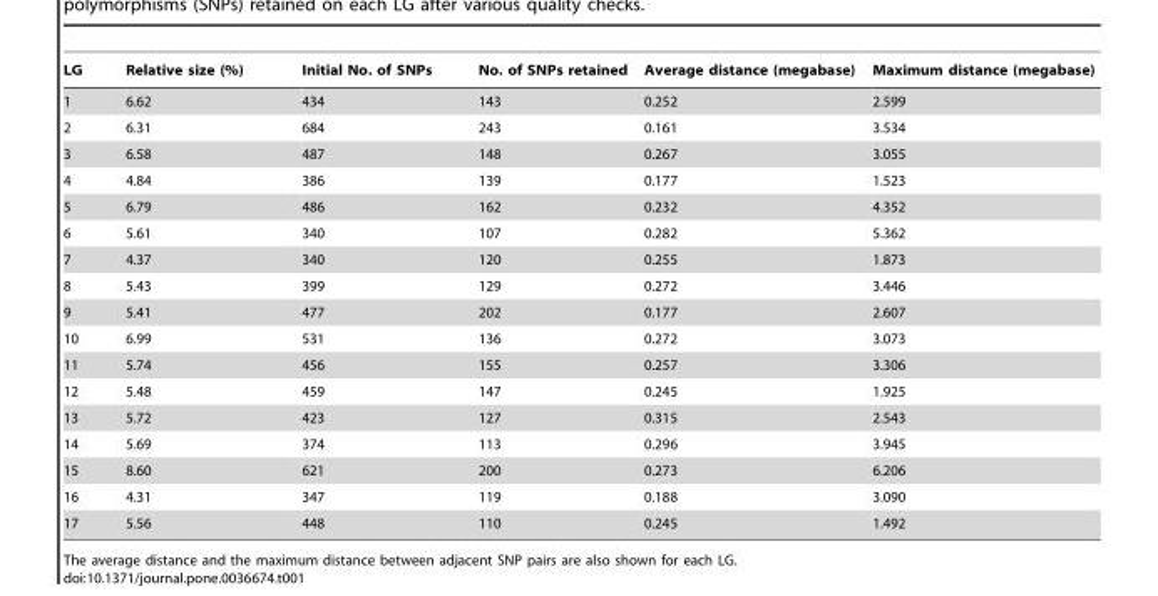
<table><thead><tr><td>LG</td><td>Relative size (%)</td><td>Initial No. of SNPs</td><td>No. of SNPs retained</td><td>Average distance (megabase)</td><td>Maximum distance (megabase)</td></tr></thead><tbody><tr><td>1</td><td>6.62</td><td>434</td><td>143</td><td>0.252</td><td>2.599</td></tr><tr><td>2</td><td>6.31</td><td>684</td><td>243</td><td>0.161</td><td>3.534</td></tr><tr><td>3</td><td>6.58</td><td>487</td><td>148</td><td>0.267</td><td>3.055</td></tr><tr><td>4</td><td>4.84</td><td>386</td><td>139</td><td>0.177</td><td>1.523</td></tr><tr><td>5</td><td>6.79</td><td>486</td><td>162</td><td>0.232</td><td>4.352</td></tr><tr><td>6</td><td>5.61</td><td>340</td><td>107</td><td>0.282</td><td>5.362</td></tr><tr><td>7</td><td>4.37</td><td>340</td><td>120</td><td>0.255</td><td>1.873</td></tr><tr><td>8</td><td>5.43</td><td>399</td><td>129</td><td>0.272</td><td>3.446</td></tr><tr><td>9</td><td>5.41</td><td>477</td><td>202</td><td>0.177</td><td>2.607</td></tr><tr><td>10</td><td>6.99</td><td>531</td><td>136</td><td>0.272</td><td>3.073</td></tr><tr><td>11</td><td>5.74</td><td>456</td><td>155</td><td>0.257</td><td>3.306</td></tr><tr><td>12</td><td>5.48</td><td>459</td><td>147</td><td>0.245</td><td>1.925</td></tr><tr><td>13</td><td>5.72</td><td>423</td><td>127</td><td>0.315</td><td>2.543</td></tr><tr><td>14</td><td>5.69</td><td>374</td><td>113</td><td>0.296</td><td>3.945</td></tr><tr><td>15</td><td>8.60</td><td>621</td><td>200</td><td>0.273</td><td>6.206</td></tr><tr><td>16</td><td>4.31</td><td>347</td><td>119</td><td>0.188</td><td>3.090</td></tr><tr><td>17</td><td>5.56</td><td>448</td><td>110</td><td>0.245</td><td>1.492</td></tr></tbody></table>